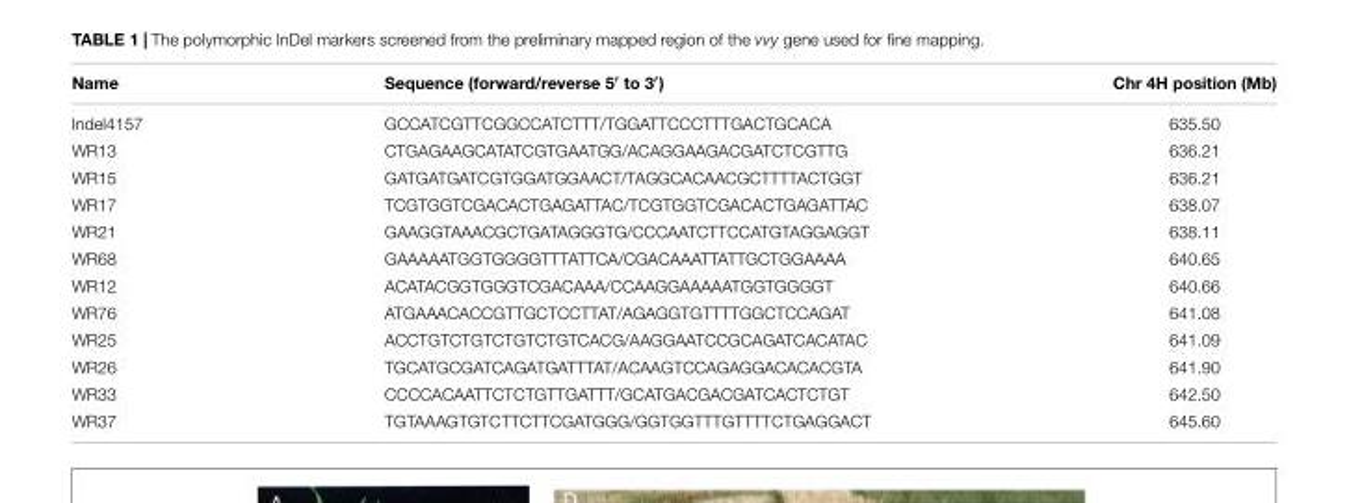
<table><thead><tr><td>Name</td><td>Sequence (forward/reverse 5′ to 3′)</td><td>Chr 4H position (Mb)</td></tr></thead><tbody><tr><td>Indel4157</td><td>GCCATCGTTCGGCCATCTTT/TGGATTCCCTTTGACTGCACA</td><td>635.50</td></tr><tr><td>WR13</td><td>CTGAGAAGCATATCGTGAATGG/ACAGGAAGACGATCTCGTTG</td><td>636.21</td></tr><tr><td>WR15</td><td>GATGATGATCGTGGATGGAACT/TAGGCACAACGCTTTTACTGGT</td><td>636.21</td></tr><tr><td>WR17</td><td>TCGTGGTCGACACTGAGATTAC/TCGTGGTCGACACTGAGATTAC</td><td>638.07</td></tr><tr><td>WR21</td><td>GAAGGTAAACGCTGATAGGGTG/CCCAATCTTCCATGTAGGAGGT</td><td>638.11</td></tr><tr><td>WR68</td><td>GAAAAATGGTGGGGTTTATTCA/CGACAAATTATTGCTGGAAAA</td><td>640.65</td></tr><tr><td>WR12</td><td>ACATACGGTGGGTCGACAAA/CCAAGGAAAAATGGTGGGGT</td><td>640.66</td></tr><tr><td>WR76</td><td>ATGAAACACCGTTGCTCCTTAT/AGAGGTGTTTTGGCTCCAGAT</td><td>641.08</td></tr><tr><td>WR25</td><td>ACCTGTCTGTCTGTCTGTCACG/AAGGAATCCGCAGATCACATAC</td><td>641.09</td></tr><tr><td>WR26</td><td>TGCATGCGATCAGATGATTTAT/ACAAGTCCAGAGGACACACGTA</td><td>641.90</td></tr><tr><td>WR33</td><td>CCCCACAATTCTCTGTTGATTT/GCATGACGACGATCACTCTGT</td><td>642.50</td></tr><tr><td>WR37</td><td>TGTAAAGTGTCTTCTTCGATGGG/GGTGGTTTGTTTTCTGAGGACT</td><td>645.60</td></tr></tbody></table>